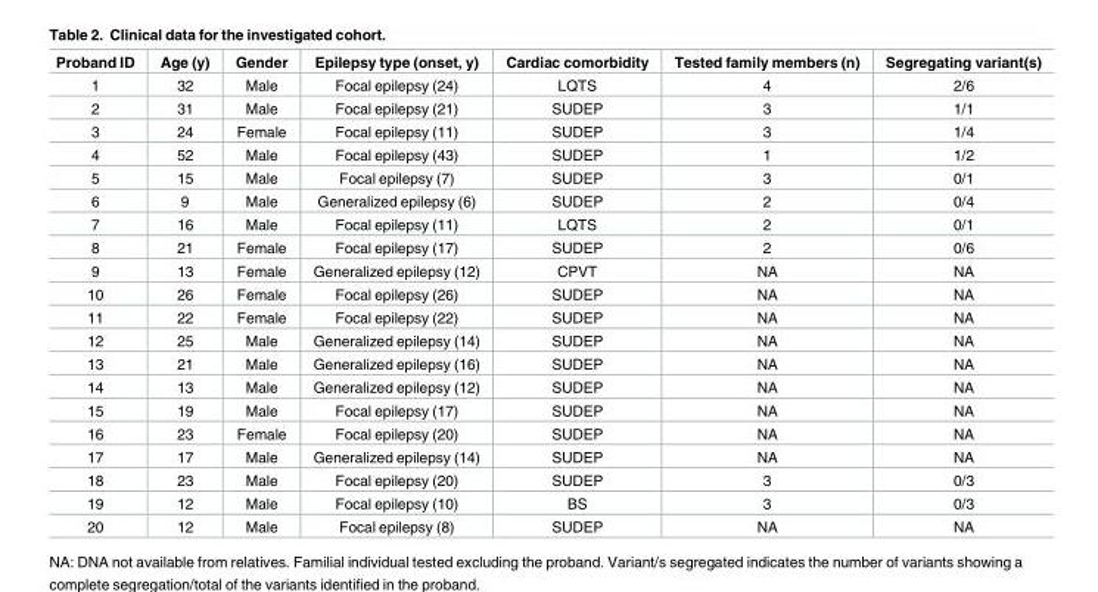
<table><thead><tr><td>Proband ID</td><td>Age (y)</td><td>Gender</td><td>Epilepsy type (onset, y)</td><td>Cardiac comorbidity</td><td>Tested family members (n)</td><td>Segregating variant(s)</td></tr></thead><tbody><tr><td>1</td><td>32</td><td>Male</td><td>Focal epilepsy (24)</td><td>LQTS</td><td>4</td><td>2/6</td></tr><tr><td>2</td><td>31</td><td>Male</td><td>Focal epilepsy (21)</td><td>SUDEP</td><td>3</td><td>1/1</td></tr><tr><td>3</td><td>24</td><td>Female</td><td>Focal epilepsy (11)</td><td>SUDEP</td><td>3</td><td>1/4</td></tr><tr><td>4</td><td>52</td><td>Male</td><td>Focal epilepsy (43)</td><td>SUDEP</td><td>1</td><td>1/2</td></tr><tr><td>5</td><td>15</td><td>Male</td><td>Focal epilepsy (7)</td><td>SUDEP</td><td>3</td><td>0/1</td></tr><tr><td>6</td><td>9</td><td>Male</td><td>Generalized epilepsy (6)</td><td>SUDEP</td><td>2</td><td>0/4</td></tr><tr><td>7</td><td>16</td><td>Male</td><td>Focal epilepsy (11)</td><td>LQTS</td><td>2</td><td>0/1</td></tr><tr><td>8</td><td>21</td><td>Female</td><td>Focal epilepsy (17)</td><td>SUDEP</td><td>2</td><td>0/6</td></tr><tr><td>9</td><td>13</td><td>Female</td><td>Generalized epilepsy (12)</td><td>CPVT</td><td>NA</td><td>NA</td></tr><tr><td>10</td><td>26</td><td>Female</td><td>Focal epilepsy (26)</td><td>SUDEP</td><td>NA</td><td>NA</td></tr><tr><td>11</td><td>22</td><td>Female</td><td>Focal epilepsy (22)</td><td>SUDEP</td><td>NA</td><td>NA</td></tr><tr><td>12</td><td>25</td><td>Male</td><td>Generalized epilepsy (14)</td><td>SUDEP</td><td>NA</td><td>NA</td></tr><tr><td>13</td><td>21</td><td>Male</td><td>Generalized epilepsy (16)</td><td>SUDEP</td><td>NA</td><td>NA</td></tr><tr><td>14</td><td>13</td><td>Male</td><td>Generalized epilepsy (12)</td><td>SUDEP</td><td>NA</td><td>NA</td></tr><tr><td>15</td><td>19</td><td>Male</td><td>Focal epilepsy (17)</td><td>SUDEP</td><td>NA</td><td>NA</td></tr><tr><td>16</td><td>23</td><td>Female</td><td>Focal epilepsy (20)</td><td>SUDEP</td><td>NA</td><td>NA</td></tr><tr><td>17</td><td>17</td><td>Male</td><td>Generalized epilepsy (14)</td><td>SUDEP</td><td>NA</td><td>NA</td></tr><tr><td>18</td><td>23</td><td>Male</td><td>Focal epilepsy (20)</td><td>SUDEP</td><td>3</td><td>0/3</td></tr><tr><td>19</td><td>12</td><td>Male</td><td>Focal epilepsy (10)</td><td>BS</td><td>3</td><td>0/3</td></tr><tr><td>20</td><td>12</td><td>Male</td><td>Focal epilepsy (8)</td><td>SUDEP</td><td>NA</td><td>NA</td></tr></tbody></table>